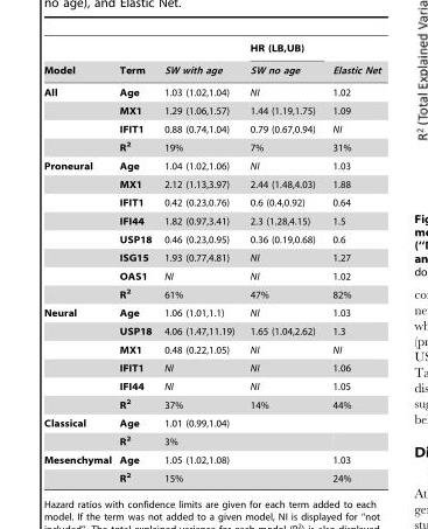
<table><thead><tr><td rowspan="2">Model</td><td rowspan="2">Term</td><td rowspan="2">SW with age</td><td rowspan="2">HR (LB,UB) SW no age</td><td rowspan="2">Elastic Net</td></tr><tr></tr></thead><tbody><tr><td rowspan="4">All</td><td>Age</td><td>1.03 (1.02,1.04)</td><td>NI</td><td>1.02</td></tr><tr><td>MX1</td><td>1.29 (1.06,1.57)</td><td>1.44 (1.19,1.75)</td><td>1.09</td></tr><tr><td>IFIT1</td><td>0.88 (0.74,1.04)</td><td>0.79 (0.67,0.94)</td><td>NI</td></tr><tr><td>R<sup>2</sup></td><td>19%</td><td>7%</td><td>31%</td></tr><tr><td rowspan="8">Proneural</td><td>Age</td><td>1.04 (1.02,1.06)</td><td>NI</td><td>1.03</td></tr><tr><td>MX1</td><td>2.12 (1.13,3.97)</td><td>2.44 (1.48,4.03)</td><td>1.88</td></tr><tr><td>IFIT1</td><td>0.42 (0.23,0.76)</td><td>0.6 (0.4,0.92)</td><td>0.64</td></tr><tr><td>IFI44</td><td>1.82 (0.97,3.41)</td><td>2.3 (1.28,4.15)</td><td>1.5</td></tr><tr><td>USP18</td><td>0.46 (0.23,0.95)</td><td>0.36 (0.19,0.68)</td><td>0.6</td></tr><tr><td>ISG15</td><td>1.93 (0.77,4.81)</td><td>NI</td><td>1.27</td></tr><tr><td>OAS1</td><td>NI</td><td>NI</td><td>1.02</td></tr><tr><td>R<sup>2</sup></td><td>61%</td><td>47%</td><td>82%</td></tr><tr><td rowspan="6">Neural</td><td>Age</td><td>1.06 (1.01,1.1)</td><td>NI</td><td>1.03</td></tr><tr><td>USP18</td><td>4.06 (1.47,11.19)</td><td>1.65 (1.04,2.62)</td><td>1.3</td></tr><tr><td>MX1</td><td>0.48 (0.22,1.05)</td><td>NI</td><td>NI</td></tr><tr><td>IFIT1</td><td>NI</td><td>NI</td><td>1.06</td></tr><tr><td>IFI44</td><td>NI</td><td>NI</td><td>1.05</td></tr><tr><td>R<sup>2</sup></td><td>37%</td><td>14%</td><td>44%</td></tr><tr><td rowspan="2">Classical</td><td>Age</td><td>1.01 (0.99,1.04)</td><td></td><td></td></tr><tr><td>R<sup>2</sup></td><td>3%</td><td></td><td></td></tr><tr><td rowspan="2">Mesenchymal</td><td>Age</td><td>1.05 (1.02,1.08)</td><td></td><td>1.03</td></tr><tr><td>R<sup>2</sup></td><td>15%</td><td></td><td>24%</td></tr></tbody></table>